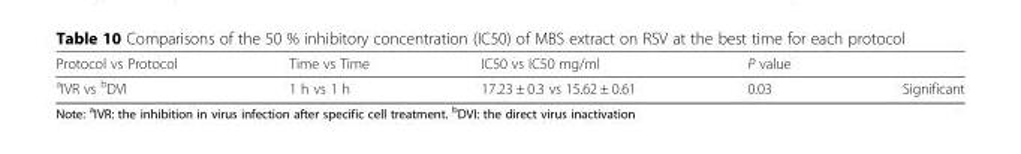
<table><thead><tr><td>Protocol vs Protocol</td><td>Time vs Time</td><td>IC50 vs IC50 mg/ml</td><td>P value</td><td></td></tr></thead><tbody><tr><td><sup>a</sup>IVR vs <sup>b</sup>DVI</td><td>1 h vs 1 h</td><td>17.23 ± 0.3 vs 15.62 ± 0.61</td><td>0.03</td><td>Significant</td></tr></tbody></table>